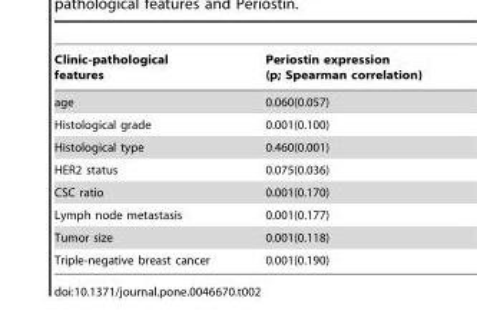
<table><thead><tr><td>Clinic-pathological features</td><td>Periostin expression (p; Spearman correlation)</td></tr></thead><tbody><tr><td>age</td><td>0.060(0.057)</td></tr><tr><td>Histological grade</td><td>0.001(0.100)</td></tr><tr><td>Histological type</td><td>0.460(0.001)</td></tr><tr><td>HER2 status</td><td>0.075(0.036)</td></tr><tr><td>CSC ratio</td><td>0.001(0.170)</td></tr><tr><td>Lymph node metastasis</td><td>0.001(0.177)</td></tr><tr><td>Tumor size</td><td>0.001(0.118)</td></tr><tr><td>Triple-negative breast cancer</td><td>0.001(0.190)</td></tr></tbody></table>